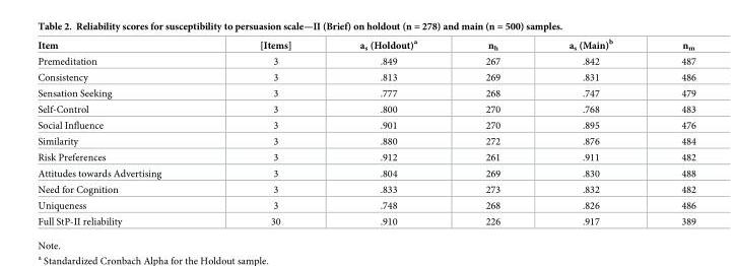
<table><thead><tr><td>Item</td><td>[Items]</td><td>a<sub>s</sub> (Holdout)<sup>a</sup></td><td>n<sub>h</sub></td><td>a<sub>s</sub> (Main)<sup>b</sup></td><td>n<sub>m</sub></td></tr></thead><tbody><tr><td>Premeditation</td><td>3</td><td>.849</td><td>267</td><td>.842</td><td>487</td></tr><tr><td>Consistency</td><td>3</td><td>.813</td><td>269</td><td>.831</td><td>486</td></tr><tr><td>Sensation Seeking</td><td>3</td><td>.777</td><td>268</td><td>.747</td><td>479</td></tr><tr><td>Self-Control</td><td>3</td><td>.800</td><td>270</td><td>.768</td><td>483</td></tr><tr><td>Social Influence</td><td>3</td><td>.901</td><td>270</td><td>.895</td><td>476</td></tr><tr><td>Similarity</td><td>3</td><td>.880</td><td>272</td><td>.876</td><td>484</td></tr><tr><td>Risk Preferences</td><td>3</td><td>.912</td><td>261</td><td>.911</td><td>482</td></tr><tr><td>Attitudes towards Advertising</td><td>3</td><td>.804</td><td>269</td><td>.830</td><td>488</td></tr><tr><td>Need for Cognition</td><td>3</td><td>.833</td><td>273</td><td>.832</td><td>482</td></tr><tr><td>Uniqueness</td><td>3</td><td>.748</td><td>268</td><td>.826</td><td>486</td></tr><tr><td>Full StP-II reliability</td><td>30</td><td>.910</td><td>226</td><td>.917</td><td>389</td></tr></tbody></table>